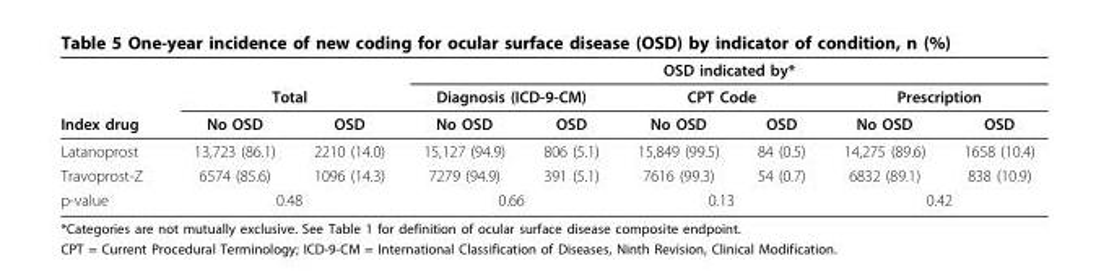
<table><thead><tr><td rowspan="3">Index drug</td><td></td><td></td><td colspan="6">OSD indicated by*</td></tr><tr><td colspan="2">Total</td><td colspan="2">Diagnosis (ICD-9-CM)</td><td colspan="2">CPT Code</td><td colspan="2">Prescription</td></tr><tr><td>No OSD</td><td>OSD</td><td>No OSD</td><td>OSD</td><td>No OSD</td><td>OSD</td><td>No OSD</td><td>OSD</td></tr></thead><tbody><tr><td>Latanoprost</td><td>13,723 (86.1)</td><td>2210 (14.0)</td><td>15,127 (94.9)</td><td>806 (5.1)</td><td>15,849 (99.5)</td><td>84 (0.5)</td><td>14,275 (89.6)</td><td>1658 (10.4)</td></tr><tr><td>Travoprost-Z</td><td>6574 (85.6)</td><td>1096 (14.3)</td><td>7279 (94.9)</td><td>391 (5.1)</td><td>7616 (99.3)</td><td>54 (0.7)</td><td>6832 (89.1)</td><td>838 (10.9)</td></tr><tr><td>p-value</td><td colspan="2">0.48</td><td colspan="2">0.66</td><td colspan="2">0.13</td><td colspan="2">0.42</td></tr></tbody></table>